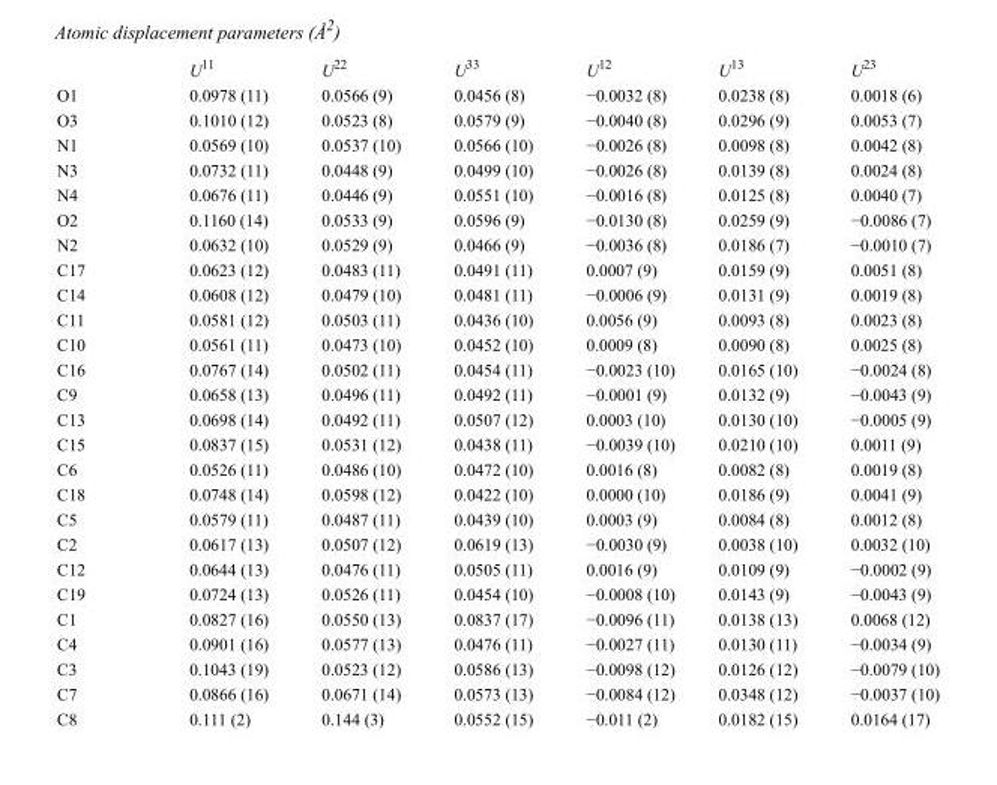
<table><thead><tr><td></td><td>U<sup>11</sup></td><td>U<sup>22</sup></td><td>U<sup>33</sup></td><td>U<sup>12</sup></td><td>U<sup>13</sup></td><td>U<sup>23</sup></td></tr></thead><tbody><tr><td>O1</td><td>0.0978 (11)</td><td>0.0566 (9)</td><td>0.0456 (8)</td><td>−0.0032 (8)</td><td>0.0238 (8)</td><td>0.0018 (6)</td></tr><tr><td>O3</td><td>0.1010 (12)</td><td>0.0523 (8)</td><td>0.0579 (9)</td><td>−0.0040 (8)</td><td>0.0296 (9)</td><td>0.0053 (7)</td></tr><tr><td>N1</td><td>0.0569 (10)</td><td>0.0537 (10)</td><td>0.0566 (10)</td><td>−0.0026 (8)</td><td>0.0098 (8)</td><td>0.0042 (8)</td></tr><tr><td>N3</td><td>0.0732 (11)</td><td>0.0448 (9)</td><td>0.0499 (10)</td><td>−0.0026 (8)</td><td>0.0139 (8)</td><td>0.0024 (8)</td></tr><tr><td>N4</td><td>0.0676 (11)</td><td>0.0446 (9)</td><td>0.0551 (10)</td><td>−0.0016 (8)</td><td>0.0125 (8)</td><td>0.0040 (7)</td></tr><tr><td>O2</td><td>0.1160 (14)</td><td>0.0533 (9)</td><td>0.0596 (9)</td><td>−0.0130 (8)</td><td>0.0259 (9)</td><td>−0.0086 (7)</td></tr><tr><td>N2</td><td>0.0632 (10)</td><td>0.0529 (9)</td><td>0.0466 (9)</td><td>−0.0036 (8)</td><td>0.0186 (7)</td><td>−0.0010 (7)</td></tr><tr><td>C17</td><td>0.0623 (12)</td><td>0.0483 (11)</td><td>0.0491 (11)</td><td>0.0007 (9)</td><td>0.0159 (9)</td><td>0.0051 (8)</td></tr><tr><td>C14</td><td>0.0608 (12)</td><td>0.0479 (10)</td><td>0.0481 (11)</td><td>−0.0006 (9)</td><td>0.0131 (9)</td><td>0.0019 (8)</td></tr><tr><td>C11</td><td>0.0581 (12)</td><td>0.0503 (11)</td><td>0.0436 (10)</td><td>0.0056 (9)</td><td>0.0093 (8)</td><td>0.0023 (8)</td></tr><tr><td>C10</td><td>0.0561 (11)</td><td>0.0473 (10)</td><td>0.0452 (10)</td><td>0.0009 (8)</td><td>0.0090 (8)</td><td>0.0025 (8)</td></tr><tr><td>C16</td><td>0.0767 (14)</td><td>0.0502 (11)</td><td>0.0454 (11)</td><td>−0.0023 (10)</td><td>0.0165 (10)</td><td>−0.0024 (8)</td></tr><tr><td>C9</td><td>0.0658 (13)</td><td>0.0496 (11)</td><td>0.0492 (11)</td><td>−0.0001 (9)</td><td>0.0132 (9)</td><td>−0.0043 (9)</td></tr><tr><td>C13</td><td>0.0698 (14)</td><td>0.0492 (11)</td><td>0.0507 (12)</td><td>0.0003 (10)</td><td>0.0130 (10)</td><td>−0.0005 (9)</td></tr><tr><td>C15</td><td>0.0837 (15)</td><td>0.0531 (12)</td><td>0.0438 (11)</td><td>−0.0039 (10)</td><td>0.0210 (10)</td><td>0.0011 (9)</td></tr><tr><td>C6</td><td>0.0526 (11)</td><td>0.0486 (10)</td><td>0.0472 (10)</td><td>0.0016 (8)</td><td>0.0082 (8)</td><td>0.0019 (8)</td></tr><tr><td>C18</td><td>0.0748 (14)</td><td>0.0598 (12)</td><td>0.0422 (10)</td><td>0.0000 (10)</td><td>0.0186 (9)</td><td>0.0041 (9)</td></tr><tr><td>C5</td><td>0.0579 (11)</td><td>0.0487 (11)</td><td>0.0439 (10)</td><td>0.0003 (9)</td><td>0.0084 (8)</td><td>0.0012 (8)</td></tr><tr><td>C2</td><td>0.0617 (13)</td><td>0.0507 (12)</td><td>0.0619 (13)</td><td>−0.0030 (9)</td><td>0.0038 (10)</td><td>0.0032 (10)</td></tr><tr><td>C12</td><td>0.0644 (13)</td><td>0.0476 (11)</td><td>0.0505 (11)</td><td>0.0016 (9)</td><td>0.0109 (9)</td><td>−0.0002 (9)</td></tr><tr><td>C19</td><td>0.0724 (13)</td><td>0.0526 (11)</td><td>0.0454 (10)</td><td>−0.0008 (10)</td><td>0.0143 (9)</td><td>−0.0043 (9)</td></tr><tr><td>C1</td><td>0.0827 (16)</td><td>0.0550 (13)</td><td>0.0837 (17)</td><td>−0.0096 (11)</td><td>0.0138 (13)</td><td>0.0068 (12)</td></tr><tr><td>C4</td><td>0.0901 (16)</td><td>0.0577 (13)</td><td>0.0476 (11)</td><td>−0.0027 (11)</td><td>0.0130 (11)</td><td>−0.0034 (9)</td></tr><tr><td>C3</td><td>0.1043 (19)</td><td>0.0523 (12)</td><td>0.0586 (13)</td><td>−0.0098 (12)</td><td>0.0126 (12)</td><td>−0.0079 (10)</td></tr><tr><td>C7</td><td>0.0866 (16)</td><td>0.0671 (14)</td><td>0.0573 (13)</td><td>−0.0084 (12)</td><td>0.0348 (12)</td><td>−0.0037 (10)</td></tr><tr><td>C8</td><td>0.111 (2)</td><td>0.144 (3)</td><td>0.0552 (15)</td><td>−0.011 (2)</td><td>0.0182 (15)</td><td>0.0164 (17)</td></tr></tbody></table>